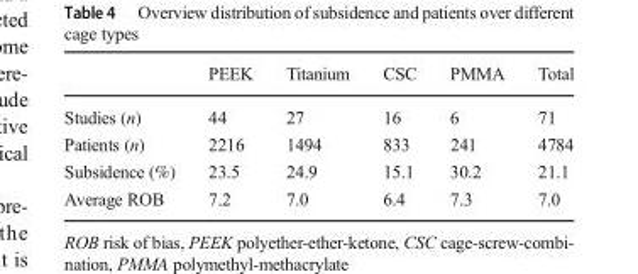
<table><thead><tr><td></td><td>PEEK</td><td>Titanium</td><td>CSC</td><td>PMMA</td><td>Total</td></tr></thead><tbody><tr><td>Studies (n)</td><td>44</td><td>27</td><td>16</td><td>6</td><td>71</td></tr><tr><td>Patients (n)</td><td>2216</td><td>1494</td><td>833</td><td>241</td><td>4784</td></tr><tr><td>Subsidence (%)</td><td>23.5</td><td>24.9</td><td>15.1</td><td>30.2</td><td>21.1</td></tr><tr><td>Average ROB</td><td>7.2</td><td>7.0</td><td>6.4</td><td>7.3</td><td>7.0</td></tr></tbody></table>